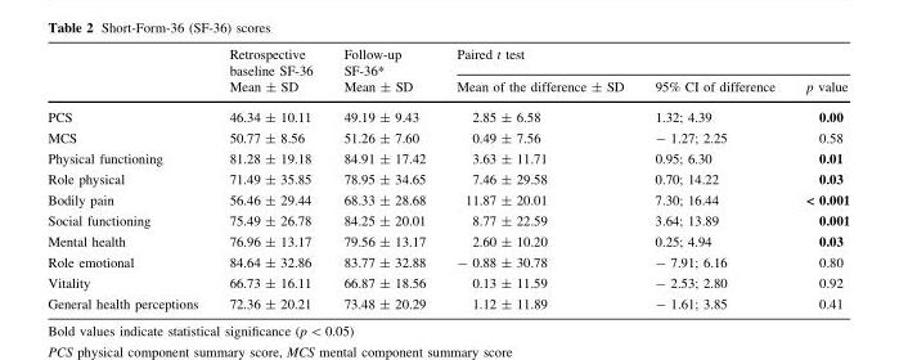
<table><thead><tr><td rowspan="2"></td><td rowspan="2">Retrospective baseline SF-36 Mean ± SD</td><td rowspan="2">Follow-up SF-36* Mean ± SD</td><td colspan="3">Paired t test</td></tr><tr><td>Mean of the difference ± SD</td><td>95% CI of difference</td><td>p value</td></tr></thead><tbody><tr><td>PCS</td><td>46.34 ± 10.11</td><td>49.19 ± 9.43</td><td>2.85 ± 6.58</td><td>1.32; 4.39</td><td>0.00</td></tr><tr><td>MCS</td><td>50.77 ± 8.56</td><td>51.26 ± 7.60</td><td>0.49 ± 7.56</td><td>- 1.27; 2.25</td><td>0.58</td></tr><tr><td>Physical functioning</td><td>81.28 ± 19.18</td><td>84.91 ± 17.42</td><td>3.63 ± 11.71</td><td>0.95; 6.30</td><td>0.01</td></tr><tr><td>Role physical</td><td>71.49 ± 35.85</td><td>78.95 ± 34.65</td><td>7.46 ± 29.58</td><td>0.70; 14.22</td><td>0.03</td></tr><tr><td>Bodily pain</td><td>56.46 ± 29.44</td><td>68.33 ± 28.68</td><td>11.87 ± 20.01</td><td>7.30; 16.44</td><td>&lt; 0.001</td></tr><tr><td>Social functioning</td><td>75.49 ± 26.78</td><td>84.25 ± 20.01</td><td>8.77 ± 22.59</td><td>3.64; 13.89</td><td>0.001</td></tr><tr><td>Mental health</td><td>76.96 ± 13.17</td><td>79.56 ± 13.17</td><td>2.60 ± 10.20</td><td>0.25; 4.94</td><td>0.03</td></tr><tr><td>Role emotional</td><td>84.64 ± 32.86</td><td>83.77 ± 32.88</td><td>- 0.88 ± 30.78</td><td>- 7.91; 6.16</td><td>0.80</td></tr><tr><td>Vitality</td><td>66.73 ± 16.11</td><td>66.87 ± 18.56</td><td>0.13 ± 11.59</td><td>- 2.53; 2.80</td><td>0.92</td></tr><tr><td>General health perceptions</td><td>72.36 ± 20.21</td><td>73.48 ± 20.29</td><td>1.12 ± 11.89</td><td>- 1.61; 3.85</td><td>0.41</td></tr></tbody></table>